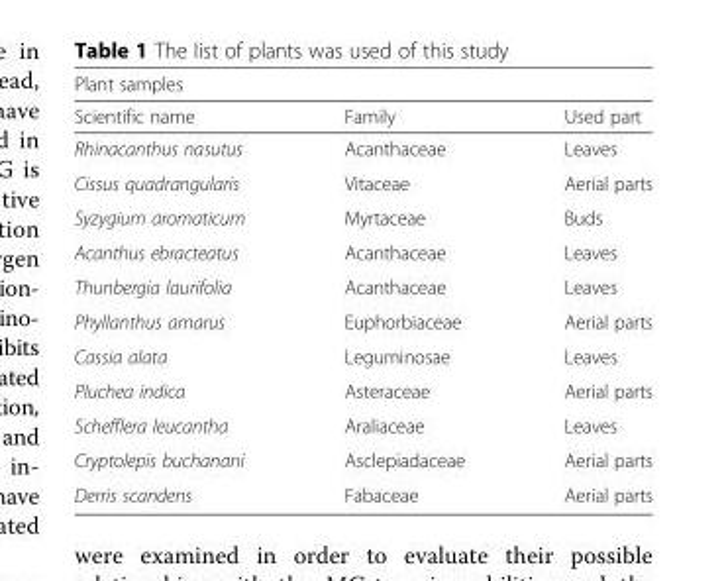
<table><thead><tr><td colspan="3">Plant samples</td></tr><tr><td>Scientific name</td><td>Family</td><td>Used part</td></tr></thead><tbody><tr><td>Rhinacanthus nasutus</td><td>Acanthaceae</td><td>Leaves</td></tr><tr><td>Cissus quadrangularis</td><td>Vitaceae</td><td>Aerial parts</td></tr><tr><td>Syzygium aromaticum</td><td>Myrtaceae</td><td>Buds</td></tr><tr><td>Acanthus ebracteatus</td><td>Acanthaceae</td><td>Leaves</td></tr><tr><td>Thunbergia laurifolia</td><td>Acanthaceae</td><td>Leaves</td></tr><tr><td>Phyllanthus amarus</td><td>Euphorbiaceae</td><td>Aerial parts</td></tr><tr><td>Cassia alata</td><td>Leguminosae</td><td>Leaves</td></tr><tr><td>Pluchea indica</td><td>Asteraceae</td><td>Aerial parts</td></tr><tr><td>Schefflera leucantha</td><td>Araliaceae</td><td>Leaves</td></tr><tr><td>Cryptolepis buchanani</td><td>Asclepiadaceae</td><td>Aerial parts</td></tr><tr><td>Derris scandens</td><td>Fabaceae</td><td>Aerial parts</td></tr></tbody></table>